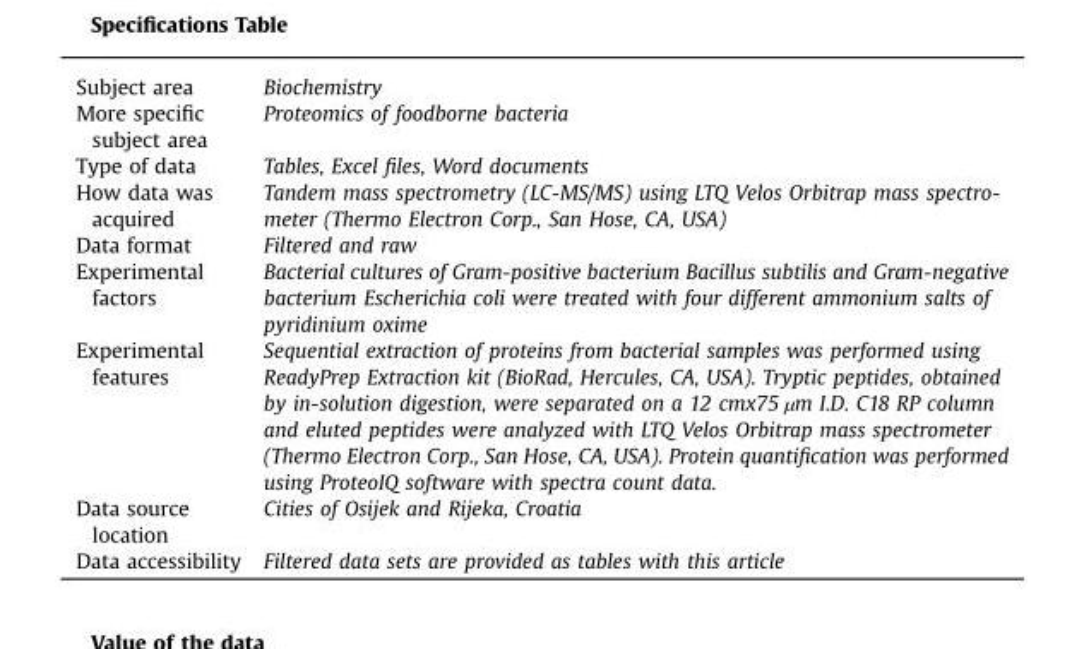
<table><tbody><tr><td>Subject area</td><td>Biochemistry</td></tr><tr><td>More specific subject area</td><td>Proteomics of foodborne bacteria</td></tr><tr><td>Type of data</td><td>Tables, Excel files, Word documents</td></tr><tr><td>How data was acquired</td><td>Tandem mass spectrometry (LC-MS/MS) using LTQ Velos Orbitrap mass spectro- meter (Thermo Electron Corp., San Hose, CA, USA)</td></tr><tr><td>Data format</td><td>Filtered and raw</td></tr><tr><td>Experimental factors</td><td>Bacterial cultures of Gram-positive bacterium Bacillus subtilis and Gram-negative bacterium Escherichia coli were treated with four different ammonium salts of pyridinium oxime</td></tr><tr><td>Experimental features</td><td>Sequential extraction of proteins from bacterial samples was performed using ReadyPrep Extraction kit (BioRad, Hercules, CA, USA). Tryptic peptides, obtained by in-solution digestion, were separated on a 12 cmx75 µm I.D. C18 RP column and eluted peptides were analyzed with LTQ Velos Orbitrap mass spectrometer (Thermo Electron Corp., San Hose, CA, USA). Protein quantification was performed using ProteoIQ software with spectra count data.</td></tr><tr><td>Data source location</td><td>Cities of Osijek and Rijeka, Croatia</td></tr><tr><td>Data accessibility</td><td>Filtered data sets are provided as tables with this article</td></tr></tbody></table>